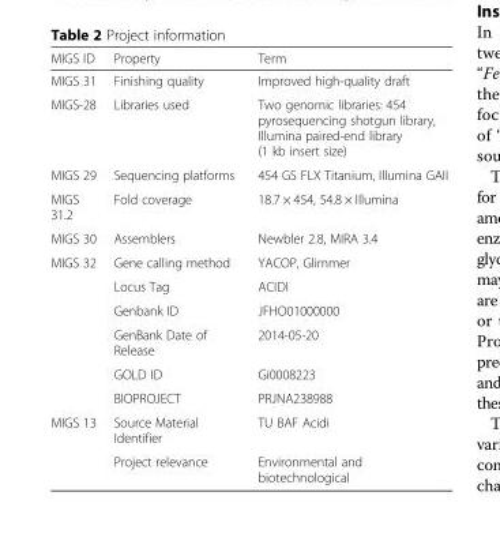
<table><thead><tr><td>MIGS ID</td><td>Property</td><td>Term</td></tr></thead><tbody><tr><td>MIGS 31</td><td>Finishing quality</td><td>Improved high-quality draft</td></tr><tr><td>MIGS-28</td><td>Libraries used</td><td>Two genomic libraries: 454 pyrosequencing shotgun library, Illumina paired-end library (1 kb insert size)</td></tr><tr><td>MIGS 29</td><td>Sequencing platforms</td><td>454 GS FLX Titanium, Illumina GAII</td></tr><tr><td>MIGS 31.2</td><td>Fold coverage</td><td>18.7 × 454, 54.8 × Illumina</td></tr><tr><td>MIGS 30</td><td>Assemblers</td><td>Newbler 2.8, MIRA 3.4</td></tr><tr><td rowspan="6">MIGS 32</td><td>Gene calling method</td><td>YACOP, Glimmer</td></tr><tr><td>Locus Tag</td><td>ACIDI</td></tr><tr><td>Genbank ID</td><td>JFHO01000000</td></tr><tr><td>GenBank Date of Release</td><td>2014-05-20</td></tr><tr><td>GOLD ID</td><td>Gi0008223</td></tr><tr><td>BIOPROJECT</td><td>PRJNA238988</td></tr><tr><td rowspan="2">MIGS 13</td><td>Source Material Identifier</td><td>TU BAF Acidi</td></tr><tr><td>Project relevance</td><td>Environmental and biotechnological</td></tr></tbody></table>